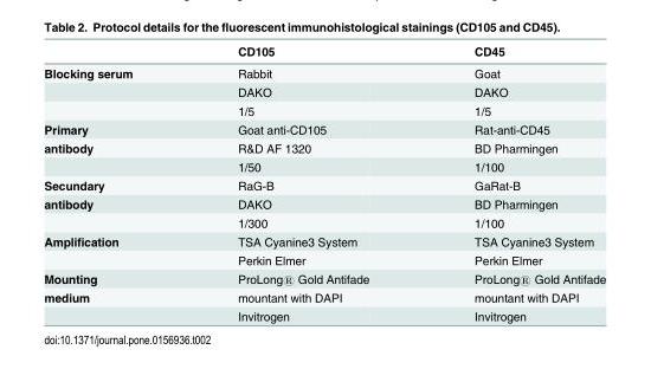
<table><thead><tr><td></td><td>CD105</td><td>CD45</td></tr></thead><tbody><tr><td rowspan="3">Blocking serum</td><td>Rabbit</td><td>Goat</td></tr><tr><td>DAKO</td><td>DAKO</td></tr><tr><td>1/5</td><td>1/5</td></tr><tr><td>Primary</td><td>Goat anti-CD105</td><td>Rat-anti-CD45</td></tr><tr><td rowspan="2">antibody</td><td>R&amp;D AF 1320</td><td>BD Pharmingen</td></tr><tr><td>1/50</td><td>1/100</td></tr><tr><td>Secundary</td><td>RaG-B</td><td>GaRat-B</td></tr><tr><td rowspan="2">antibody</td><td>DAKO</td><td>BD Pharmingen</td></tr><tr><td>1/300</td><td>1/100</td></tr><tr><td rowspan="2">Amplification</td><td>TSA Cyanine3 System</td><td>TSA Cyanine3 System</td></tr><tr><td>Perkin Elmer</td><td>Perkin Elmer</td></tr><tr><td>Mounting</td><td>ProLong® Gold Antifade</td><td>ProLong® Gold Antifade</td></tr><tr><td rowspan="2">medium</td><td>mountant with DAPI</td><td>mountant with DAPI</td></tr><tr><td>Invitrogen</td><td>Invitrogen</td></tr></tbody></table>